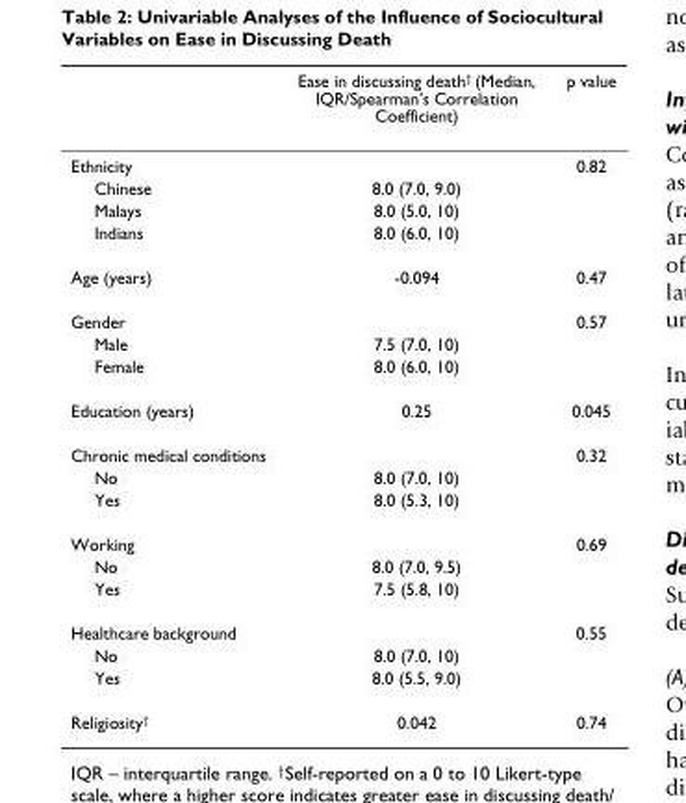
<table><thead><tr><td></td><td>Ease in discussing death<sup>†</sup> (Median, IQR/Spearman&#x27;s Correlation Coefficient)</td><td>p value</td></tr></thead><tbody><tr><td>Ethnicity</td><td></td><td>0.82</td></tr><tr><td>Chinese</td><td>8.0 (7.0, 9.0)</td><td></td></tr><tr><td>Malays</td><td>8.0 (5.0, 10)</td><td></td></tr><tr><td>Indians</td><td>8.0 (6.0, 10)</td><td></td></tr><tr><td>Age (years)</td><td>-0.094</td><td>0.47</td></tr><tr><td>Gender</td><td></td><td>0.57</td></tr><tr><td>Male</td><td>7.5 (7.0, 10)</td><td></td></tr><tr><td>Female</td><td>8.0 (6.0, 10)</td><td></td></tr><tr><td>Education (years)</td><td>0.25</td><td>0.045</td></tr><tr><td>Chronic medical conditions</td><td></td><td>0.32</td></tr><tr><td>No</td><td>8.0 (7.0, 10)</td><td></td></tr><tr><td>Yes</td><td>8.0 (5.3, 10)</td><td></td></tr><tr><td>Working</td><td></td><td>0.69</td></tr><tr><td>No</td><td>8.0 (7.0, 9.5)</td><td></td></tr><tr><td>Yes</td><td>7.5 (5.8, 10)</td><td></td></tr><tr><td>Healthcare background</td><td></td><td>0.55</td></tr><tr><td>No</td><td>8.0 (7.0, 10)</td><td></td></tr><tr><td>Yes</td><td>8.0 (5.5, 9.0)</td><td></td></tr><tr><td>Religiosity<sup>†</sup></td><td>0.042</td><td>0.74</td></tr></tbody></table>